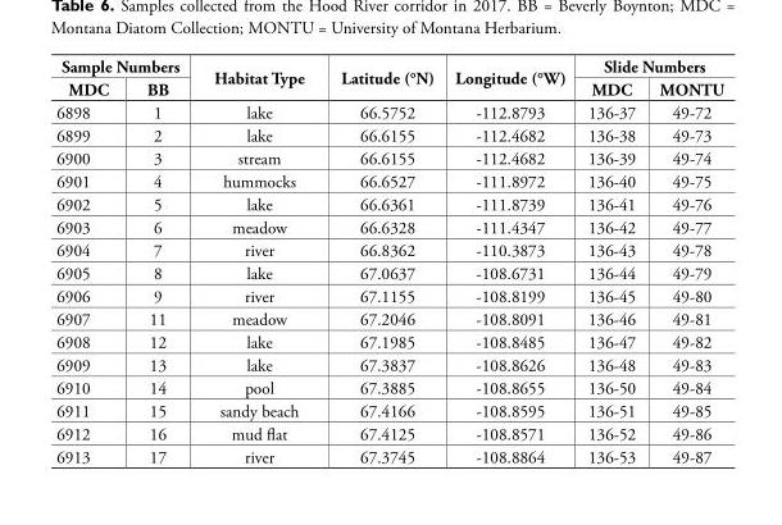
<table><thead><tr><td colspan="2">Sample Numbers</td><td rowspan="2">Habitat Type</td><td rowspan="2">Latitude (°N)</td><td rowspan="2">Longitude (°W)</td><td colspan="2">Slide Numbers</td></tr><tr><td>MDC</td><td>BB</td><td>MDC</td><td>MONTU</td></tr></thead><tbody><tr><td>6898</td><td>1</td><td>lake</td><td colspan="2">66.5752 -112.8793</td><td>136-37</td><td>49-72</td></tr><tr><td>6899</td><td>2</td><td>lake</td><td colspan="2">66.6155 -112.4682</td><td>136-38</td><td>49-73</td></tr><tr><td>6900</td><td>3</td><td>stream</td><td colspan="2">66.6155 -112.4682</td><td>136-39</td><td>49-74</td></tr><tr><td>6901</td><td>4</td><td>hummocks</td><td colspan="2">66.6527 -111.8972</td><td>136-40</td><td>49-75</td></tr><tr><td>6902</td><td>5</td><td>lake</td><td colspan="2">66.6361 -111.8739</td><td>136-41</td><td>49-76</td></tr><tr><td>6903</td><td>6</td><td>meadow</td><td colspan="2">66.6328 -111.4347</td><td>136-42</td><td>49-77</td></tr><tr><td>6904</td><td>7</td><td>river</td><td colspan="2">66.8362 -110.3873</td><td>136-43</td><td>49-78</td></tr><tr><td>6905</td><td>8</td><td>lake</td><td colspan="2">67.0637 -108.6731</td><td>136-44</td><td>49-79</td></tr><tr><td>6906</td><td>9</td><td>river</td><td colspan="2">67.1155 -108.8199</td><td>136-45</td><td>49-80</td></tr><tr><td>6907</td><td>11</td><td>meadow</td><td colspan="2">67.2046 -108.8091</td><td>136-46</td><td>49-81</td></tr><tr><td>6908</td><td>12</td><td>lake</td><td colspan="2">67.1985 -108.8485</td><td>136-47</td><td>49-82</td></tr><tr><td>6909</td><td>13</td><td>lake</td><td colspan="2">67.3837 -108.8626</td><td>136-48</td><td>49-83</td></tr><tr><td>6910</td><td>14</td><td>pool</td><td colspan="2">67.3885 -108.8655</td><td>136-50</td><td>49-84</td></tr><tr><td>6911</td><td>15</td><td>sandy beach</td><td colspan="2">67.4166 -108.8595</td><td>136-51</td><td>49-85</td></tr><tr><td>6912</td><td>16</td><td>mud flat</td><td colspan="2">67.4125 -108.8571</td><td>136-52</td><td>49-86</td></tr><tr><td>6913</td><td>17</td><td>river</td><td colspan="2">67.3745 -108.8864</td><td>136-53</td><td>49-87</td></tr></tbody></table>